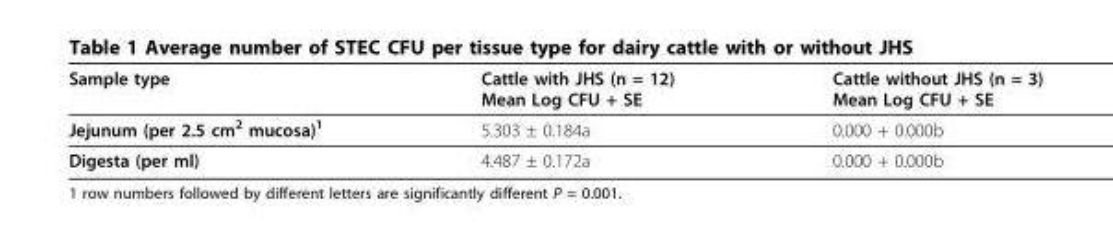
<table><thead><tr><td>Sample type</td><td>Cattle with JHS (n = 12) Mean Log CFU + SE</td><td>Cattle without JHS (n = 3) Mean Log CFU + SE</td></tr></thead><tbody><tr><td>Jejunum (per 2.5 cm<sup>2</sup> mucosa)<sup>1</sup></td><td>5.303 ± 0.184a</td><td>0.000 + 0.000b</td></tr><tr><td>Digesta (per ml)</td><td>4.487 ± 0.172a</td><td>0.000 + 0.000b</td></tr></tbody></table>